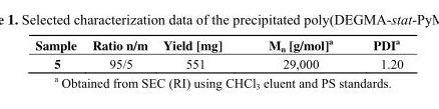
<table><thead><tr><td>Sample</td><td>Ratio n/m</td><td>Yield [mg]</td><td>M<sub>n</sub> [g/mol]<sup>a</sup></td><td>PDI<sup>a</sup></td></tr></thead><tbody><tr><td>5</td><td>95/5</td><td>551</td><td>29,000</td><td>1.20</td></tr></tbody></table>